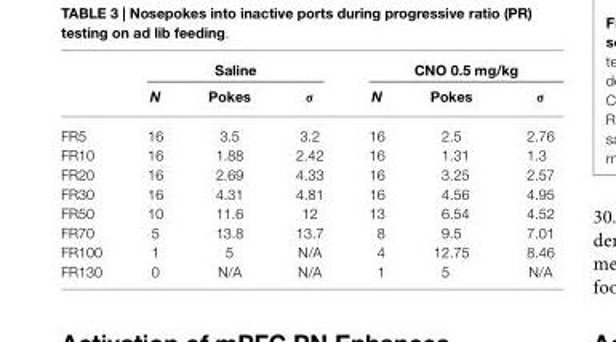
<table><thead><tr><td rowspan="2"></td><td colspan="3">Saline</td><td colspan="3">CNO 0.5 mg/kg</td></tr><tr><td>N</td><td>Pokes</td><td>σ</td><td>N</td><td>Pokes</td><td>σ</td></tr></thead><tbody><tr><td>FR5</td><td>16</td><td>3.5</td><td>3.2</td><td>16</td><td>2.5</td><td>2.76</td></tr><tr><td>FR10</td><td>16</td><td>1.88</td><td>2.42</td><td>16</td><td>1.31</td><td>1.3</td></tr><tr><td>FR20</td><td>16</td><td>2.69</td><td>4.33</td><td>16</td><td>3.25</td><td>2.57</td></tr><tr><td>FR30</td><td>16</td><td>4.31</td><td>4.81</td><td>16</td><td>4.56</td><td>4.95</td></tr><tr><td>FR50</td><td>10</td><td>11.6</td><td>12</td><td>13</td><td>6.54</td><td>4.52</td></tr><tr><td>FR70</td><td>5</td><td>13.8</td><td>13.7</td><td>8</td><td>9.5</td><td>7.01</td></tr><tr><td>FR100</td><td>1</td><td>5</td><td>N/A</td><td>4</td><td>12.75</td><td>8.46</td></tr><tr><td>FR130</td><td>0</td><td>N/A</td><td>N/A</td><td>1</td><td>5</td><td>N/A</td></tr></tbody></table>